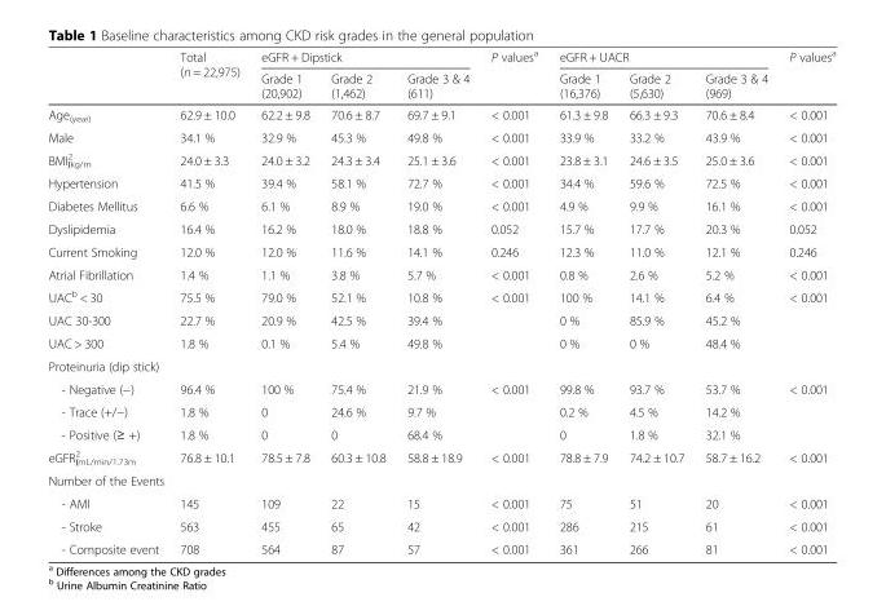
<table><thead><tr><td rowspan="2"></td><td rowspan="2">Total (n = 22,975)</td><td colspan="3">eGFR + Dipstick</td><td rowspan="2">P values<sup>a</sup></td><td colspan="3">eGFR + UACR</td><td rowspan="2">P values<sup>a</sup></td></tr><tr><td>Grade 1 (20,902)</td><td>Grade 2 (1,462)</td><td>Grade 3 &amp; 4 (611)</td><td>Grade 1 (16,376)</td><td>Grade 2 (5,630)</td><td>Grade 3 &amp; 4 (969)</td></tr></thead><tbody><tr><td>Age<sub>(year)</sub></td><td>62.9 ± 10.0</td><td>62.2 ± 9.8</td><td>70.6 ± 8.7</td><td>69.7 ± 9.1</td><td>&lt; 0.001</td><td>61.3 ± 9.8</td><td>66.3 ± 9.3</td><td>70.6 ± 8.4</td><td>&lt; 0.001</td></tr><tr><td>Male</td><td>34.1 %</td><td>32.9 %</td><td>45.3 %</td><td>49.8 %</td><td>&lt; 0.001</td><td>33.9 %</td><td>33.2 %</td><td>43.9 %</td><td>&lt; 0.001</td></tr><tr><td>BMI<sub>(kg/m</sub> <sup>2</sup> <sub>)</sub></td><td>24.0 ± 3.3</td><td>24.0 ± 3.2</td><td>24.3 ± 3.4</td><td>25.1 ± 3.6</td><td>&lt; 0.001</td><td>23.8 ± 3.1</td><td>24.6 ± 3.5</td><td>25.0 ± 3.6</td><td>&lt; 0.001</td></tr><tr><td>Hypertension</td><td>41.5 %</td><td>39.4 %</td><td>58.1 %</td><td>72.7 %</td><td>&lt; 0.001</td><td>34.4 %</td><td>59.6 %</td><td>72.5 %</td><td>&lt; 0.001</td></tr><tr><td>Diabetes Mellitus</td><td>6.6 %</td><td>6.1 %</td><td>8.9 %</td><td>19.0 %</td><td>&lt; 0.001</td><td>4.9 %</td><td>9.9 %</td><td>16.1 %</td><td>&lt; 0.001</td></tr><tr><td>Dyslipidemia</td><td>16.4 %</td><td>16.2 %</td><td>18.0 %</td><td>18.8 %</td><td>0.052</td><td>15.7 %</td><td>17.7 %</td><td>20.3 %</td><td>0.052</td></tr><tr><td>Current Smoking</td><td>12.0 %</td><td>12.0 %</td><td>11.6 %</td><td>14.1 %</td><td>0.246</td><td>12.3 %</td><td>11.0 %</td><td>12.1 %</td><td>0.246</td></tr><tr><td>Atrial Fibrillation</td><td>1.4 %</td><td>1.1 %</td><td>3.8 %</td><td>5.7 %</td><td>&lt; 0.001</td><td>0.8 %</td><td>2.6 %</td><td>5.2 %</td><td>&lt; 0.001</td></tr><tr><td>UAC<sup>b</sup> &lt; 30</td><td>75.5 %</td><td>79.0 %</td><td>52.1 %</td><td>10.8 %</td><td>&lt; 0.001</td><td>100 %</td><td>14.1 %</td><td>6.4 %</td><td>&lt; 0.001</td></tr><tr><td>UAC 30-300</td><td>22.7 %</td><td>20.9 %</td><td>42.5 %</td><td>39.4 %</td><td></td><td>0 %</td><td>85.9 %</td><td>45.2 %</td><td></td></tr><tr><td>UAC &gt; 300</td><td>1.8 %</td><td>0.1 %</td><td>5.4 %</td><td>49.8 %</td><td></td><td>0 %</td><td>0 %</td><td>48.4 %</td><td></td></tr><tr><td colspan="10">Proteinuria (dip stick)</td></tr><tr><td>- Negative (−)</td><td>96.4 %</td><td>100 %</td><td>75.4 %</td><td>21.9 %</td><td>&lt; 0.001</td><td>99.8 %</td><td>93.7 %</td><td>53.7 %</td><td>&lt; 0.001</td></tr><tr><td>- Trace (+/−)</td><td>1.8 %</td><td>0</td><td>24.6 %</td><td>9.7 %</td><td></td><td>0.2 %</td><td>4.5 %</td><td>14.2 %</td><td></td></tr><tr><td>- Positive (≥ +)</td><td>1.8 %</td><td>0</td><td>0</td><td>68.4 %</td><td></td><td>0</td><td>1.8 %</td><td>32.1 %</td><td></td></tr><tr><td>eGFR<sub>(mL/min/1.73m</sub> <sup>2</sup> <sub>)</sub></td><td>76.8 ± 10.1</td><td>78.5 ± 7.8</td><td>60.3 ± 10.8</td><td>58.8 ± 18.9</td><td>&lt; 0.001</td><td>78.8 ± 7.9</td><td>74.2 ± 10.7</td><td>58.7 ± 16.2</td><td>&lt; 0.001</td></tr><tr><td colspan="10">Number of the Events</td></tr><tr><td>- AMI</td><td>145</td><td>109</td><td>22</td><td>15</td><td>&lt; 0.001</td><td>75</td><td>51</td><td>20</td><td>&lt; 0.001</td></tr><tr><td>- Stroke</td><td>563</td><td>455</td><td>65</td><td>42</td><td>&lt; 0.001</td><td>286</td><td>215</td><td>61</td><td>&lt; 0.001</td></tr><tr><td>- Composite event</td><td>708</td><td>564</td><td>87</td><td>57</td><td>&lt; 0.001</td><td>361</td><td>266</td><td>81</td><td>&lt; 0.001</td></tr></tbody></table>